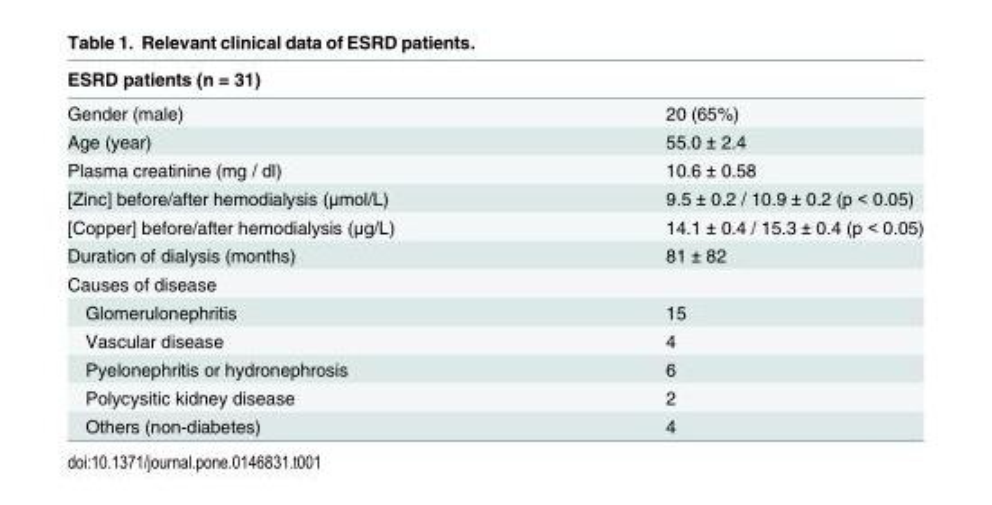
<table><thead><tr><td>ESRD patients (n = 31)</td><td></td></tr></thead><tbody><tr><td>Gender (male)</td><td>20 (65%)</td></tr><tr><td>Age (year)</td><td>55.0 ± 2.4</td></tr><tr><td>Plasma creatinine (mg / dl)</td><td>10.6 ± 0.58</td></tr><tr><td>[Zinc] before/after hemodialysis (μmol/L)</td><td>9.5 ± 0.2 / 10.9 ± 0.2 (p &lt; 0.05)</td></tr><tr><td>[Copper] before/after hemodialysis (μg/L)</td><td>14.1 ± 0.4 / 15.3 ± 0.4 (p &lt; 0.05)</td></tr><tr><td>Duration of dialysis (months)</td><td>81 ± 82</td></tr><tr><td colspan="2">Causes of disease</td></tr><tr><td>Glomerulonephritis</td><td>15</td></tr><tr><td>Vascular disease</td><td>4</td></tr><tr><td>Pyelonephritis or hydronephrosis</td><td>6</td></tr><tr><td>Polycysitic kidney disease</td><td>2</td></tr><tr><td>Others (non-diabetes)</td><td>4</td></tr></tbody></table>